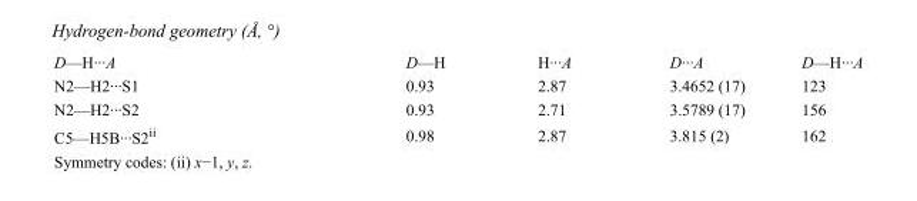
<table><tbody><tr><td>D—H···A</td><td>D—H</td><td>H···A</td><td>D···A</td><td>D—H···A</td></tr><tr><td>N2—H2···S1</td><td>0.93</td><td>2.87</td><td>3.4652 (17)</td><td>123</td></tr><tr><td>N2—H2···S2</td><td>0.93</td><td>2.71</td><td>3.5789 (17)</td><td>156</td></tr><tr><td>C5—H5B···S2<sup>ii</sup></td><td>0.98</td><td>2.87</td><td>3.815 (2)</td><td>162</td></tr></tbody></table>